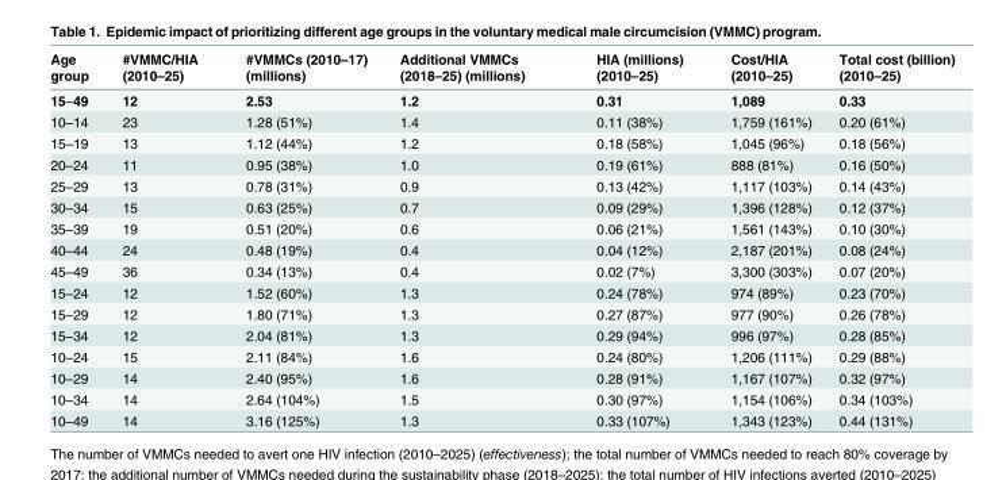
<table><thead><tr><td>Age group</td><td>#VMMC/HIA (2010–25)</td><td>#VMMCs (2010–17) (millions)</td><td>Additional VMMCs (2018–25) (millions)</td><td>HIA (millions) (2010–25)</td><td>Cost/HIA (2010–25)</td><td>Total cost (billion) (2010–25)</td></tr></thead><tbody><tr><td>15–49</td><td>12</td><td>2.53</td><td>1.2</td><td>0.31</td><td>1,089</td><td>0.33</td></tr><tr><td>10–14</td><td>23</td><td>1.28 (51%)</td><td>1.4</td><td>0.11 (38%)</td><td>1,759 (161%)</td><td>0.20 (61%)</td></tr><tr><td>15–19</td><td>13</td><td>1.12 (44%)</td><td>1.2</td><td>0.18 (58%)</td><td>1,045 (96%)</td><td>0.18 (56%)</td></tr><tr><td>20–24</td><td>11</td><td>0.95 (38%)</td><td>1.0</td><td>0.19 (61%)</td><td>888 (81%)</td><td>0.16 (50%)</td></tr><tr><td>25–29</td><td>13</td><td>0.78 (31%)</td><td>0.9</td><td>0.13 (42%)</td><td>1,117 (103%)</td><td>0.14 (43%)</td></tr><tr><td>30–34</td><td>15</td><td>0.63 (25%)</td><td>0.7</td><td>0.09 (29%)</td><td>1,396 (128%)</td><td>0.12 (37%)</td></tr><tr><td>35–39</td><td>19</td><td>0.51 (20%)</td><td>0.6</td><td>0.06 (21%)</td><td>1,561 (143%)</td><td>0.10 (30%)</td></tr><tr><td>40–44</td><td>24</td><td>0.48 (19%)</td><td>0.4</td><td>0.04 (12%)</td><td>2,187 (201%)</td><td>0.08 (24%)</td></tr><tr><td>45–49</td><td>36</td><td>0.34 (13%)</td><td>0.4</td><td>0.02 (7%)</td><td>3,300 (303%)</td><td>0.07 (20%)</td></tr><tr><td>15–24</td><td>12</td><td>1.52 (60%)</td><td>1.3</td><td>0.24 (78%)</td><td>974 (89%)</td><td>0.23 (70%)</td></tr><tr><td>15–29</td><td>12</td><td>1.80 (71%)</td><td>1.3</td><td>0.27 (87%)</td><td>977 (90%)</td><td>0.26 (78%)</td></tr><tr><td>15–34</td><td>12</td><td>2.04 (81%)</td><td>1.3</td><td>0.29 (94%)</td><td>996 (97%)</td><td>0.28 (85%)</td></tr><tr><td>10–24</td><td>15</td><td>2.11 (84%)</td><td>1.6</td><td>0.24 (80%)</td><td>1,206 (111%)</td><td>0.29 (88%)</td></tr><tr><td>10–29</td><td>14</td><td>2.40 (95%)</td><td>1.6</td><td>0.28 (91%)</td><td>1,167 (107%)</td><td>0.32 (97%)</td></tr><tr><td>10–34</td><td>14</td><td>2.64 (104%)</td><td>1.5</td><td>0.30 (97%)</td><td>1,154 (106%)</td><td>0.34 (103%)</td></tr><tr><td>10–49</td><td>14</td><td>3.16 (125%)</td><td>1.3</td><td>0.33 (107%)</td><td>1,343 (123%)</td><td>0.44 (131%)</td></tr></tbody></table>